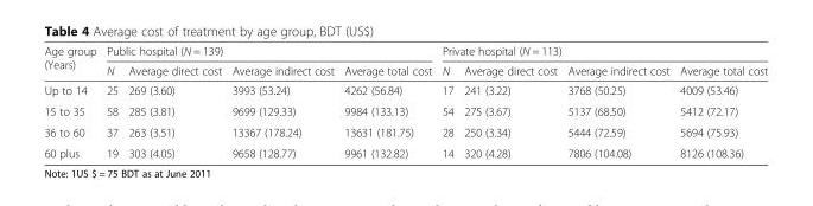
<table><thead><tr><td rowspan="2">Age group (Years)</td><td colspan="4">Public hospital (N = 139)</td><td colspan="4">Private hospital (N = 113)</td></tr><tr><td>N</td><td>Average direct cost</td><td>Average indirect cost</td><td>Average total cost</td><td>N</td><td>Average direct cost</td><td>Average indirect cost</td><td>Average total cost</td></tr></thead><tbody><tr><td>Up to 14</td><td>25</td><td>269 (3.60)</td><td>3993 (53.24)</td><td>4262 (56.84)</td><td>17</td><td>241 (3.22)</td><td>3768 (50.25)</td><td>4009 (53.46)</td></tr><tr><td>15 to 35</td><td>58</td><td>285 (3.81)</td><td>9699 (129.33)</td><td>9984 (133.13)</td><td>54</td><td>275 (3.67)</td><td>5137 (68.50)</td><td>5412 (72.17)</td></tr><tr><td>36 to 60</td><td>37</td><td>263 (3.51)</td><td>13367 (178.24)</td><td>13631 (181.75)</td><td>28</td><td>250 (3.34)</td><td>5444 (72.59)</td><td>5694 (75.93)</td></tr><tr><td>60 plus</td><td>19</td><td>303 (4.05)</td><td>9658 (128.77)</td><td>9961 (132.82)</td><td>14</td><td>320 (4.28)</td><td>7806 (104.08)</td><td>8126 (108.36)</td></tr></tbody></table>